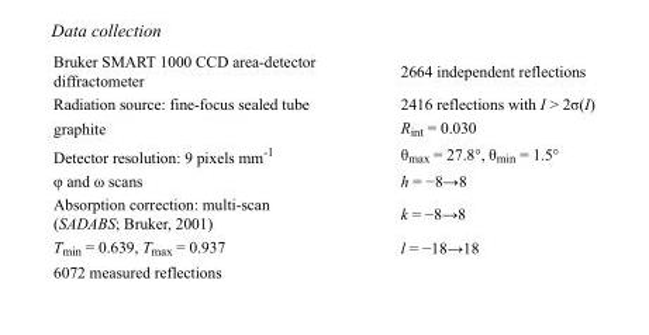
<table><tbody><tr><td>Bruker SMART 1000 CCD area-detector diffractometer</td><td>2664 independent reflections</td></tr><tr><td>Radiation source: fine-focus sealed tube</td><td>2416 reflections with I &gt; 2σ(I)</td></tr><tr><td>graphite</td><td>R<sub>int</sub> = 0.030</td></tr><tr><td>Detector resolution: 9 pixels mm<sup>-1</sup></td><td>θ<sub>max</sub> = 27.8°, θ<sub>min</sub> = 1.5°</td></tr><tr><td>φ and ω scans</td><td>h = −8→8</td></tr><tr><td>Absorption correction: multi-scan (SADABS; Bruker, 2001)</td><td>k = −8→8</td></tr><tr><td>T<sub>min</sub> = 0.639, T<sub>max</sub> = 0.937</td><td>l = −18→18</td></tr><tr><td>6072 measured reflections</td><td></td></tr></tbody></table>